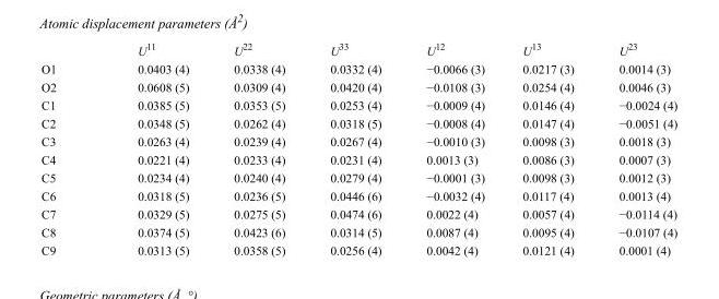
<table><thead><tr><td></td><td>U<sup>11</sup></td><td>U<sup>22</sup></td><td>U<sup>33</sup></td><td>U<sup>12</sup></td><td>U<sup>13</sup></td><td>U<sup>23</sup></td></tr></thead><tbody><tr><td>O1</td><td>0.0403 (4)</td><td>0.0338 (4)</td><td>0.0332 (4)</td><td>−0.0066 (3)</td><td>0.0217 (3)</td><td>0.0014 (3)</td></tr><tr><td>O2</td><td>0.0608 (5)</td><td>0.0309 (4)</td><td>0.0420 (4)</td><td>−0.0108 (3)</td><td>0.0254 (4)</td><td>0.0046 (3)</td></tr><tr><td>C1</td><td>0.0385 (5)</td><td>0.0353 (5)</td><td>0.0253 (4)</td><td>−0.0009 (4)</td><td>0.0146 (4)</td><td>−0.0024 (4)</td></tr><tr><td>C2</td><td>0.0348 (5)</td><td>0.0262 (4)</td><td>0.0318 (5)</td><td>−0.0008 (4)</td><td>0.0147 (4)</td><td>−0.0051 (4)</td></tr><tr><td>C3</td><td>0.0263 (4)</td><td>0.0239 (4)</td><td>0.0267 (4)</td><td>−0.0010 (3)</td><td>0.0098 (3)</td><td>0.0018 (3)</td></tr><tr><td>C4</td><td>0.0221 (4)</td><td>0.0233 (4)</td><td>0.0231 (4)</td><td>0.0013 (3)</td><td>0.0086 (3)</td><td>0.0007 (3)</td></tr><tr><td>C5</td><td>0.0234 (4)</td><td>0.0240 (4)</td><td>0.0279 (4)</td><td>−0.0001 (3)</td><td>0.0098 (3)</td><td>0.0012 (3)</td></tr><tr><td>C6</td><td>0.0318 (5)</td><td>0.0236 (5)</td><td>0.0446 (6)</td><td>−0.0032 (4)</td><td>0.0117 (4)</td><td>0.0013 (4)</td></tr><tr><td>C7</td><td>0.0329 (5)</td><td>0.0275 (5)</td><td>0.0474 (6)</td><td>0.0022 (4)</td><td>0.0057 (4)</td><td>−0.0114 (4)</td></tr><tr><td>C8</td><td>0.0374 (5)</td><td>0.0423 (6)</td><td>0.0314 (5)</td><td>0.0087 (4)</td><td>0.0095 (4)</td><td>−0.0107 (4)</td></tr><tr><td>C9</td><td>0.0313 (5)</td><td>0.0358 (5)</td><td>0.0256 (4)</td><td>0.0042 (4)</td><td>0.0121 (4)</td><td>0.0001 (4)</td></tr></tbody></table>